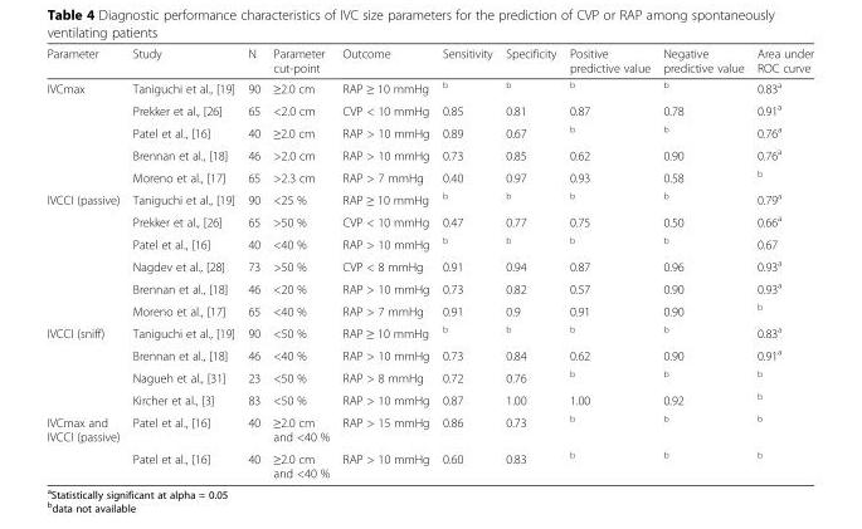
<table><thead><tr><td>Parameter</td><td>Study</td><td>N</td><td>Parameter cut-point</td><td>Outcome</td><td>Sensitivity</td><td>Specificity</td><td>Positive predictive value</td><td>Negative predictive value</td><td>Area under ROC curve</td></tr></thead><tbody><tr><td rowspan="5">IVCmax</td><td>Taniguchi et al., [19]</td><td>90</td><td>≥2.0 cm</td><td>RAP ≥ 10 mmHg</td><td><sup>b</sup></td><td><sup>b</sup></td><td><sup>b</sup></td><td><sup>b</sup></td><td>0.83<sup>a</sup></td></tr><tr><td>Prekker et al., [26]</td><td>65</td><td>&lt;2.0 cm</td><td>CVP &lt; 10 mmHg</td><td>0.85</td><td>0.81</td><td>0.87</td><td>0.78</td><td>0.91<sup>a</sup></td></tr><tr><td>Patel et al., [16]</td><td>40</td><td>≥2.0 cm</td><td>RAP &gt; 10 mmHg</td><td>0.89</td><td>0.67</td><td><sup>b</sup></td><td><sup>b</sup></td><td>0.76<sup>a</sup></td></tr><tr><td>Brennan et al., [18]</td><td>46</td><td>&gt;2.0 cm</td><td>RAP &gt; 10 mmHg</td><td>0.73</td><td>0.85</td><td>0.62</td><td>0.90</td><td>0.76<sup>a</sup></td></tr><tr><td>Moreno et al., [17]</td><td>65</td><td>&gt;2.3 cm</td><td>RAP &gt; 7 mmHg</td><td>0.40</td><td>0.97</td><td>0.93</td><td>0.58</td><td><sup>b</sup></td></tr><tr><td rowspan="6">IVCCI (passive)</td><td>Taniguchi et al., [19]</td><td>90</td><td>&lt;25 %</td><td>RAP ≥ 10 mmHg</td><td><sup>b</sup></td><td><sup>b</sup></td><td><sup>b</sup></td><td><sup>b</sup></td><td>0.79<sup>a</sup></td></tr><tr><td>Prekker et al., [26]</td><td>65</td><td>&gt;50 %</td><td>CVP &lt; 10 mmHg</td><td>0.47</td><td>0.77</td><td>0.75</td><td>0.50</td><td>0.66<sup>a</sup></td></tr><tr><td>Patel et al., [16]</td><td>40</td><td>&lt;40 %</td><td>RAP &gt; 10 mmHg</td><td><sup>b</sup></td><td><sup>b</sup></td><td><sup>b</sup></td><td><sup>b</sup></td><td>0.67</td></tr><tr><td>Nagdev et al., [28]</td><td>73</td><td>&gt;50 %</td><td>CVP &lt; 8 mmHg</td><td>0.91</td><td>0.94</td><td>0.87</td><td>0.96</td><td>0.93<sup>a</sup></td></tr><tr><td>Brennan et al., [18]</td><td>46</td><td>&lt;20 %</td><td>RAP &gt; 10 mmHg</td><td>0.73</td><td>0.82</td><td>0.57</td><td>0.90</td><td>0.93<sup>a</sup></td></tr><tr><td>Moreno et al., [17]</td><td>65</td><td>&lt;40 %</td><td>RAP &gt; 7 mmHg</td><td>0.91</td><td>0.9</td><td>0.91</td><td>0.90</td><td><sup>b</sup></td></tr><tr><td rowspan="4">IVCCI (sniff)</td><td>Taniguchi et al., [19]</td><td>90</td><td>&lt;50 %</td><td>RAP ≥ 10 mmHg</td><td><sup>b</sup></td><td><sup>b</sup></td><td><sup>b</sup></td><td><sup>b</sup></td><td>0.83<sup>a</sup></td></tr><tr><td>Brennan et al., [18]</td><td>46</td><td>&lt;40 %</td><td>RAP &gt; 10 mmHg</td><td>0.73</td><td>0.84</td><td>0.62</td><td>0.90</td><td>0.91<sup>a</sup></td></tr><tr><td>Nagueh et al., [31]</td><td>23</td><td>&lt;50 %</td><td>RAP &gt; 8 mmHg</td><td>0.72</td><td>0.76</td><td><sup>b</sup></td><td><sup>b</sup></td><td><sup>b</sup></td></tr><tr><td>Kircher et al., [3]</td><td>83</td><td>&lt;50 %</td><td>RAP &gt; 10 mmHg</td><td>0.87</td><td>1.00</td><td>1.00</td><td>0.92</td><td><sup>b</sup></td></tr><tr><td rowspan="2">IVCmax and IVCCI (passive)</td><td>Patel et al., [16]</td><td>40</td><td>≥2.0 cm and &lt;40 %</td><td>RAP &gt; 15 mmHg</td><td>0.86</td><td>0.73</td><td><sup>b</sup></td><td><sup>b</sup></td><td><sup>b</sup></td></tr><tr><td>Patel et al., [16]</td><td>40</td><td>≥2.0 cm and &lt;40 %</td><td>RAP &gt; 10 mmHg</td><td>0.60</td><td>0.83</td><td><sup>b</sup></td><td><sup>b</sup></td><td><sup>b</sup></td></tr></tbody></table>